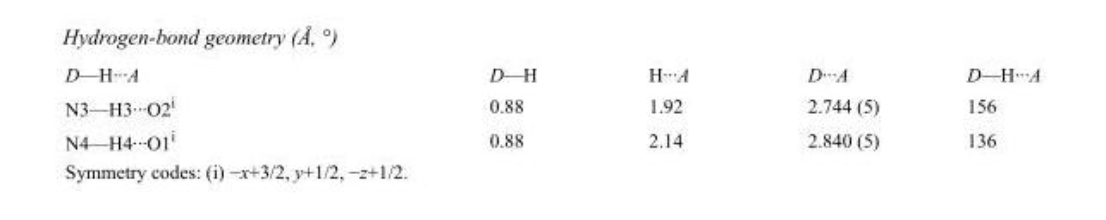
<table><tbody><tr><td>D—H···A</td><td>D—H</td><td>H···A</td><td>D···A</td><td>D—H···A</td></tr><tr><td>N3—H3···O2<sup>i</sup></td><td>0.88</td><td>1.92</td><td>2.744 (5)</td><td>156</td></tr><tr><td>N4—H4···O1<sup>i</sup></td><td>0.88</td><td>2.14</td><td>2.840 (5)</td><td>136</td></tr></tbody></table>